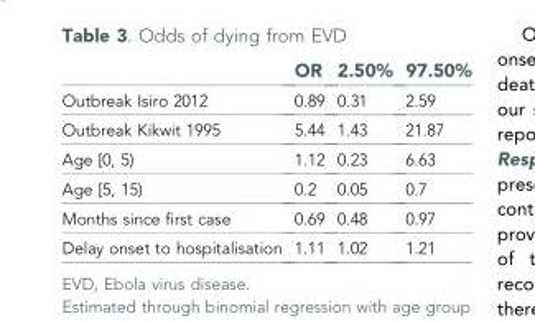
<table><thead><tr><td></td><td>OR</td><td>2.50%</td><td>97.50%</td></tr></thead><tbody><tr><td>Outbreak Isiro 2012</td><td>0.89</td><td>0.31</td><td>2.59</td></tr><tr><td>Outbreak Kikwit 1995</td><td>5.44</td><td>1.43</td><td>21.87</td></tr><tr><td>Age [0, 5)</td><td>1.12</td><td>0.23</td><td>6.63</td></tr><tr><td>Age [5, 15)</td><td>0.2</td><td>0.05</td><td>0.7</td></tr><tr><td>Months since first case</td><td>0.69</td><td>0.48</td><td>0.97</td></tr><tr><td>Delay onset to hospitalisation</td><td>1.11</td><td>1.02</td><td>1.21</td></tr></tbody></table>